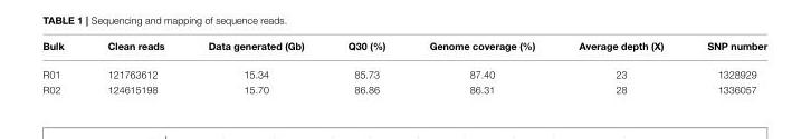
<table><thead><tr><td>Bulk</td><td>Clean reads</td><td>Data generated (Gb)</td><td>Q30 (%)</td><td>Genome coverage (%)</td><td>Average depth (X)</td><td>SNP number</td></tr></thead><tbody><tr><td>R01</td><td>121763612</td><td>15.34</td><td>85.73</td><td>87.40</td><td>23</td><td>1328929</td></tr><tr><td>R02</td><td>124615198</td><td>15.70</td><td>86.86</td><td>86.31</td><td>28</td><td>1336057</td></tr></tbody></table>